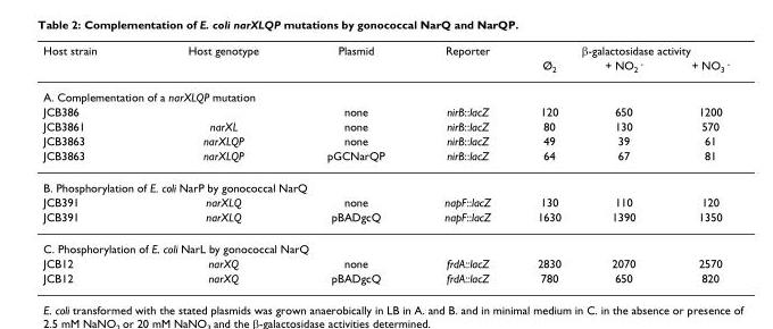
<table><thead><tr><td rowspan="2">Host strain</td><td rowspan="2">Host genotype</td><td rowspan="2">Plasmid</td><td rowspan="2">Reporter</td><td colspan="3">β-galactosidase activity</td></tr><tr><td>Ø2</td><td>+ NO2 -</td><td>+ NO3 -</td></tr></thead><tbody><tr><td colspan="7">A. Complementation of a narXLQP mutation</td></tr><tr><td>JCB386</td><td></td><td>none</td><td>nirB::lacZ</td><td>120</td><td>650</td><td>1200</td></tr><tr><td>JCB3861</td><td>narXL</td><td>none</td><td>nirB::lacZ</td><td>80</td><td>130</td><td>570</td></tr><tr><td>JCB3863</td><td>narXLQP</td><td>none</td><td>nirB::lacZ</td><td>49</td><td>39</td><td>61</td></tr><tr><td>JCB3863</td><td>narXLQP</td><td>pGCNarQP</td><td>nirB::lacZ</td><td>64</td><td>67</td><td>81</td></tr><tr><td colspan="7">B. Phosphorylation of E. coli NarP by gonococcal NarQ</td></tr><tr><td>JCB391</td><td>narXLQ</td><td>none</td><td>napF::lacZ</td><td>130</td><td>110</td><td>120</td></tr><tr><td>JCB391</td><td>narXLQ</td><td>pBADgcQ</td><td>napF::lacZ</td><td>1630</td><td>1390</td><td>1350</td></tr><tr><td colspan="7">C. Phosphorylation of E. coli NarL by gonococcal NarQ</td></tr><tr><td>JCB12</td><td>narXQ</td><td>none</td><td>frdA::lacZ</td><td>2830</td><td>2070</td><td>2570</td></tr><tr><td>JCB12</td><td>narXQ</td><td>pBADgcQ</td><td>frdA::lacZ</td><td>780</td><td>650</td><td>820</td></tr></tbody></table>